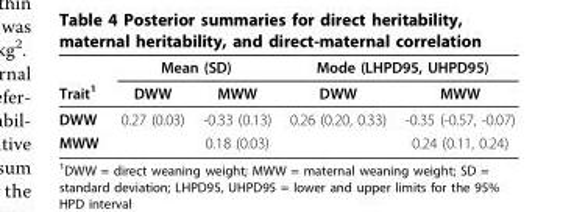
<table><thead><tr><td rowspan="2">Trait<sup>1</sup></td><td colspan="2">Mean (SD)</td><td colspan="2">Mode (LHPD95, UHPD95)</td></tr><tr><td>DWW</td><td>MWW</td><td>DWW</td><td>MWW</td></tr></thead><tbody><tr><td>DWW</td><td>0.27 (0.03)</td><td>-0.33 (0.13)</td><td>0.26 (0.20, 0.33)</td><td>-0.35 (-0.57, -0.07)</td></tr><tr><td>MWW</td><td></td><td>0.18 (0.03)</td><td></td><td>0.24 (0.11, 0.24)</td></tr></tbody></table>